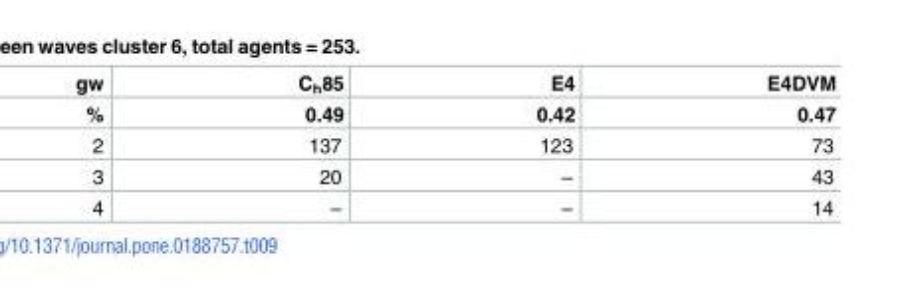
<table><thead><tr><td rowspan="2">gw %</td><td rowspan="2">C<sub>h</sub>85 0.49</td><td rowspan="2">E4 0.42</td><td rowspan="2">E4DVM 0.47</td></tr><tr></tr></thead><tbody><tr><td>2</td><td>137</td><td>123</td><td>73</td></tr><tr><td>3</td><td>20</td><td>–</td><td>43</td></tr><tr><td>4</td><td>–</td><td>–</td><td>14</td></tr></tbody></table>